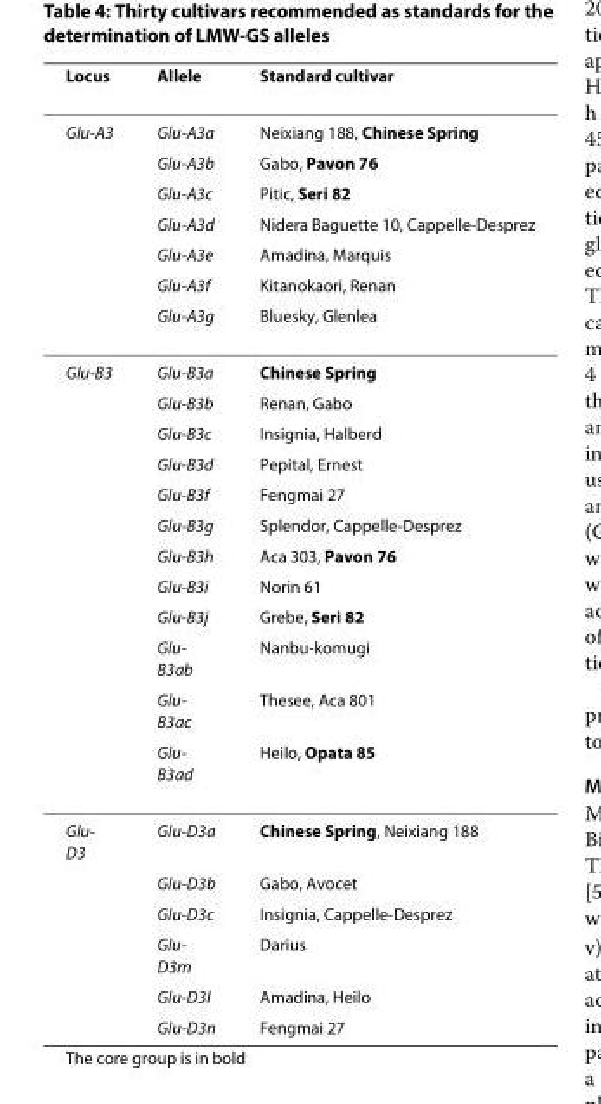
<table><thead><tr><td>Locus</td><td>Allele</td><td>Standard cultivar</td></tr></thead><tbody><tr><td rowspan="7">Glu-A3</td><td>Glu-A3a</td><td>Neixiang 188, Chinese Spring</td></tr><tr><td>Glu-A3b</td><td>Gabo, Pavon 76</td></tr><tr><td>Glu-A3c</td><td>Pitic, Seri 82</td></tr><tr><td>Glu-A3d</td><td>Nidera Baguette 10, Cappelle-Desprez</td></tr><tr><td>Glu-A3e</td><td>Amadina, Marquis</td></tr><tr><td>Glu-A3f</td><td>Kitanokaori, Renan</td></tr><tr><td>Glu-A3g</td><td>Bluesky, Glenlea</td></tr><tr><td rowspan="12">Glu-B3</td><td>Glu-B3a</td><td>Chinese Spring</td></tr><tr><td>Glu-B3b</td><td>Renan, Gabo</td></tr><tr><td>Glu-B3c</td><td>Insignia, Halberd</td></tr><tr><td>Glu-B3d</td><td>Pepital, Ernest</td></tr><tr><td>Glu-B3f</td><td>Fengmai 27</td></tr><tr><td>Glu-B3g</td><td>Splendor, Cappelle-Desprez</td></tr><tr><td>Glu-B3h</td><td>Aca 303, Pavon 76</td></tr><tr><td>Glu-B3i</td><td>Norin 61</td></tr><tr><td>Glu-B3j</td><td>Grebe, Seri 82</td></tr><tr><td>Glu- B3ab</td><td>Nanbu-komugi</td></tr><tr><td>Glu- B3ac</td><td>Thesee, Aca 801</td></tr><tr><td>Glu- B3ad</td><td>Heilo, Opata 85</td></tr><tr><td rowspan="6">Glu- D3</td><td>Glu-D3a</td><td>Chinese Spring, Neixiang 188</td></tr><tr><td>Glu-D3b</td><td>Gabo, Avocet</td></tr><tr><td>Glu-D3c</td><td>Insignia, Cappelle-Desprez</td></tr><tr><td>Glu- D3m</td><td>Darius</td></tr><tr><td>Glu-D3l</td><td>Amadina, Heilo</td></tr><tr><td>Glu-D3n</td><td>Fengmai 27</td></tr></tbody></table>